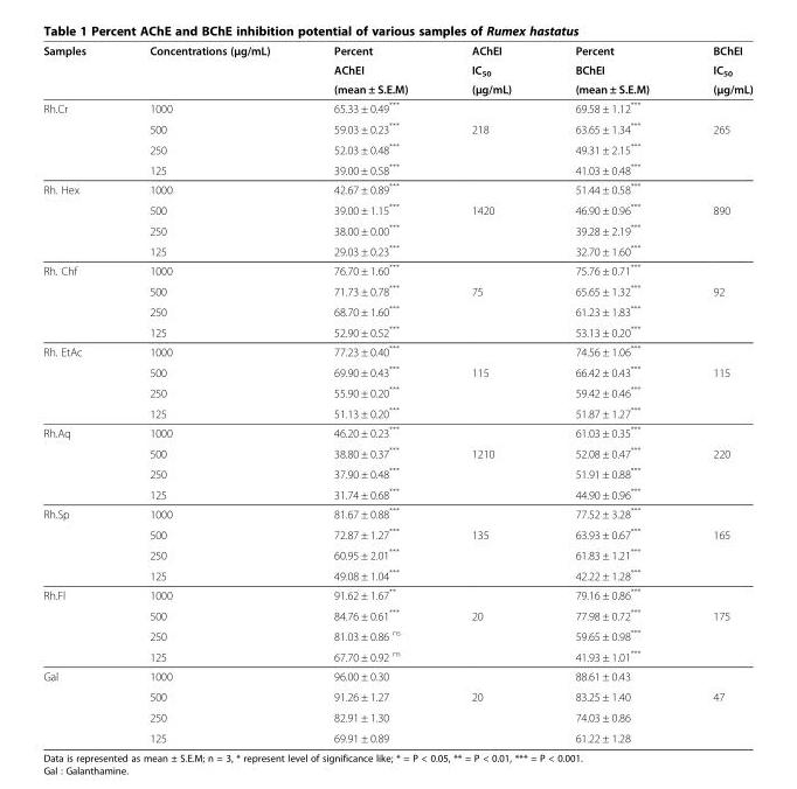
<table><thead><tr><td rowspan="3">Samples</td><td rowspan="3">Concentrations (μg/mL)</td><td rowspan="3">Percent AChEI (mean ± S.E.M)</td><td rowspan="3">AChEI IC<sub>50</sub> (μg/mL)</td><td rowspan="3">Percent BChEI (mean ± S.E.M)</td><td rowspan="3">BChEI IC<sub>50</sub> (μg/mL)</td></tr><tr></tr><tr></tr></thead><tbody><tr><td rowspan="4">Rh.Cr</td><td>1000</td><td>65.33 ± 0.49***</td><td></td><td>69.58 ± 1.12***</td><td></td></tr><tr><td>500</td><td>59.03 ± 0.23***</td><td>218</td><td>63.65 ± 1.34***</td><td>265</td></tr><tr><td>250</td><td>52.03 ± 0.48***</td><td></td><td>49.31 ± 2.15***</td><td></td></tr><tr><td>125</td><td>39.00 ± 0.58***</td><td></td><td>41.03 ± 0.48***</td><td></td></tr><tr><td rowspan="4">Rh. Hex</td><td>1000</td><td>42.67 ± 0.89***</td><td></td><td>51.44 ± 0.58***</td><td></td></tr><tr><td>500</td><td>39.00 ± 1.15***</td><td>1420</td><td>46.90 ± 0.96***</td><td>890</td></tr><tr><td>250</td><td>38.00 ± 0.00***</td><td></td><td>39.28 ± 2.19***</td><td></td></tr><tr><td>125</td><td>29.03 ± 0.23***</td><td></td><td>32.70 ± 1.60***</td><td></td></tr><tr><td rowspan="4">Rh. Chf</td><td>1000</td><td>76.70 ± 1.60***</td><td></td><td>75.76 ± 0.71***</td><td></td></tr><tr><td>500</td><td>71.73 ± 0.78***</td><td>75</td><td>65.65 ± 1.32***</td><td>92</td></tr><tr><td>250</td><td>68.70 ± 1.60***</td><td></td><td>61.23 ± 1.83***</td><td></td></tr><tr><td>125</td><td>52.90 ± 0.52***</td><td></td><td>53.13 ± 0.20***</td><td></td></tr><tr><td rowspan="4">Rh. EtAc</td><td>1000</td><td>77.23 ± 0.40***</td><td></td><td>74.56 ± 1.06***</td><td></td></tr><tr><td>500</td><td>69.90 ± 0.43***</td><td>115</td><td>66.42 ± 0.43***</td><td>115</td></tr><tr><td>250</td><td>55.90 ± 0.20***</td><td></td><td>59.42 ± 0.46***</td><td></td></tr><tr><td>125</td><td>51.13 ± 0.20***</td><td></td><td>51.87 ± 1.27***</td><td></td></tr><tr><td rowspan="4">Rh.Aq</td><td>1000</td><td>46.20 ± 0.23***</td><td></td><td>61.03 ± 0.35***</td><td></td></tr><tr><td>500</td><td>38.80 ± 0.37***</td><td>1210</td><td>52.08 ± 0.47***</td><td>220</td></tr><tr><td>250</td><td>37.90 ± 0.48***</td><td></td><td>51.91 ± 0.88***</td><td></td></tr><tr><td>125</td><td>31.74 ± 0.68***</td><td></td><td>44.90 ± 0.96***</td><td></td></tr><tr><td rowspan="4">Rh.Sp</td><td>1000</td><td>81.67 ± 0.88***</td><td></td><td>77.52 ± 3.28***</td><td></td></tr><tr><td>500</td><td>72.87 ± 1.27***</td><td>135</td><td>63.93 ± 0.67***</td><td>165</td></tr><tr><td>250</td><td>60.95 ± 2.01***</td><td></td><td>61.83 ± 1.21***</td><td></td></tr><tr><td>125</td><td>49.08 ± 1.04***</td><td></td><td>42.22 ± 1.28***</td><td></td></tr><tr><td rowspan="4">Rh.Fl</td><td>1000</td><td>91.62 ± 1.67**</td><td></td><td>79.16 ± 0.86***</td><td></td></tr><tr><td>500</td><td>84.76 ± 0.61***</td><td>20</td><td>77.98 ± 0.72***</td><td>175</td></tr><tr><td>250</td><td>81.03 ± 0.86 <sup>ns</sup></td><td></td><td>59.65 ± 0.98***</td><td></td></tr><tr><td>125</td><td>67.70 ± 0.92 <sup>ns</sup></td><td></td><td>41.93 ± 1.01***</td><td></td></tr><tr><td rowspan="4">Gal</td><td>1000</td><td>96.00 ± 0.30</td><td></td><td>88.61 ± 0.43</td><td></td></tr><tr><td>500</td><td>91.26 ± 1.27</td><td>20</td><td>83.25 ± 1.40</td><td>47</td></tr><tr><td>250</td><td>82.91 ± 1.30</td><td></td><td>74.03 ± 0.86</td><td></td></tr><tr><td>125</td><td>69.91 ± 0.89</td><td></td><td>61.22 ± 1.28</td><td></td></tr></tbody></table>